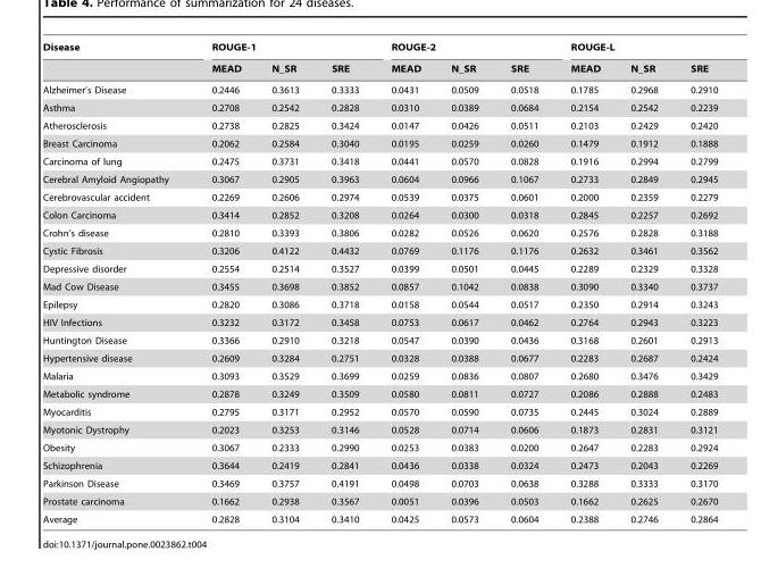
<table><thead><tr><td rowspan="2">Disease</td><td colspan="3">ROUGE-1</td><td colspan="3">ROUGE-2</td><td colspan="3">ROUGE-L</td></tr><tr><td>MEAD</td><td>N_SR</td><td>SRE</td><td>MEAD</td><td>N_SR</td><td>SRE</td><td>MEAD</td><td>N_SR</td><td>SRE</td></tr></thead><tbody><tr><td>Alzheimer’s Disease</td><td>0.2446</td><td>0.3613</td><td>0.3333</td><td>0.0431</td><td>0.0509</td><td>0.0518</td><td>0.1785</td><td>0.2968</td><td>0.2910</td></tr><tr><td>Asthma</td><td>0.2708</td><td>0.2542</td><td>0.2828</td><td>0.0310</td><td>0.0389</td><td>0.0684</td><td>0.2154</td><td>0.2542</td><td>0.2239</td></tr><tr><td>Atherosclerosis</td><td>0.2738</td><td>0.2825</td><td>0.3424</td><td>0.0147</td><td>0.0426</td><td>0.0511</td><td>0.2103</td><td>0.2429</td><td>0.2420</td></tr><tr><td>Breast Carcinoma</td><td>0.2062</td><td>0.2584</td><td>0.3040</td><td>0.0195</td><td>0.0259</td><td>0.0260</td><td>0.1479</td><td>0.1912</td><td>0.1888</td></tr><tr><td>Carcinoma of lung</td><td>0.2475</td><td>0.3731</td><td>0.3418</td><td>0.0441</td><td>0.0570</td><td>0.0828</td><td>0.1916</td><td>0.2994</td><td>0.2799</td></tr><tr><td>Cerebral Amyloid Angiopathy</td><td>0.3067</td><td>0.2905</td><td>0.3963</td><td>0.0604</td><td>0.0966</td><td>0.1067</td><td>0.2733</td><td>0.2849</td><td>0.2945</td></tr><tr><td>Cerebrovascular accident</td><td>0.2269</td><td>0.2606</td><td>0.2974</td><td>0.0539</td><td>0.0375</td><td>0.0601</td><td>0.2000</td><td>0.2359</td><td>0.2279</td></tr><tr><td>Colon Carcinoma</td><td>0.3414</td><td>0.2852</td><td>0.3208</td><td>0.0264</td><td>0.0300</td><td>0.0318</td><td>0.2845</td><td>0.2257</td><td>0.2692</td></tr><tr><td>Crohn’s disease</td><td>0.2810</td><td>0.3393</td><td>0.3806</td><td>0.0282</td><td>0.0526</td><td>0.0620</td><td>0.2576</td><td>0.2828</td><td>0.3188</td></tr><tr><td>Cystic Fibrosis</td><td>0.3206</td><td>0.4122</td><td>0.4432</td><td>0.0769</td><td>0.1176</td><td>0.1176</td><td>0.2632</td><td>0.3461</td><td>0.3562</td></tr><tr><td>Depressive disorder</td><td>0.2554</td><td>0.2514</td><td>0.3527</td><td>0.0399</td><td>0.0501</td><td>0.0445</td><td>0.2289</td><td>0.2329</td><td>0.3328</td></tr><tr><td>Mad Cow Disease</td><td>0.3455</td><td>0.3698</td><td>0.3852</td><td>0.0857</td><td>0.1042</td><td>0.0838</td><td>0.3090</td><td>0.3340</td><td>0.3737</td></tr><tr><td>Epilepsy</td><td>0.2820</td><td>0.3086</td><td>0.3718</td><td>0.0158</td><td>0.0544</td><td>0.0517</td><td>0.2350</td><td>0.2914</td><td>0.3243</td></tr><tr><td>HIV Infections</td><td>0.3232</td><td>0.3172</td><td>0.3458</td><td>0.0753</td><td>0.0617</td><td>0.0462</td><td>0.2764</td><td>0.2943</td><td>0.3223</td></tr><tr><td>Huntington Disease</td><td>0.3366</td><td>0.2910</td><td>0.3218</td><td>0.0547</td><td>0.0390</td><td>0.0436</td><td>0.3168</td><td>0.2601</td><td>0.2913</td></tr><tr><td>Hypertensive disease</td><td>0.2609</td><td>0.3284</td><td>0.2751</td><td>0.0328</td><td>0.0388</td><td>0.0677</td><td>0.2283</td><td>0.2687</td><td>0.2424</td></tr><tr><td>Malaria</td><td>0.3093</td><td>0.3529</td><td>0.3699</td><td>0.0259</td><td>0.0836</td><td>0.0807</td><td>0.2680</td><td>0.3476</td><td>0.3429</td></tr><tr><td>Metabolic syndrome</td><td>0.2878</td><td>0.3249</td><td>0.3509</td><td>0.0580</td><td>0.0811</td><td>0.0727</td><td>0.2086</td><td>0.2888</td><td>0.2483</td></tr><tr><td>Myocarditis</td><td>0.2795</td><td>0.3171</td><td>0.2952</td><td>0.0570</td><td>0.0590</td><td>0.0735</td><td>0.2445</td><td>0.3024</td><td>0.2889</td></tr><tr><td>Myotonic Dystrophy</td><td>0.2023</td><td>0.3253</td><td>0.3146</td><td>0.0528</td><td>0.0714</td><td>0.0606</td><td>0.1873</td><td>0.2831</td><td>0.3121</td></tr><tr><td>Obesity</td><td>0.3067</td><td>0.2333</td><td>0.2990</td><td>0.0253</td><td>0.0383</td><td>0.0200</td><td>0.2647</td><td>0.2283</td><td>0.2924</td></tr><tr><td>Schizophrenia</td><td>0.3644</td><td>0.2419</td><td>0.2841</td><td>0.0436</td><td>0.0338</td><td>0.0324</td><td>0.2473</td><td>0.2043</td><td>0.2269</td></tr><tr><td>Parkinson Disease</td><td>0.3469</td><td>0.3757</td><td>0.4191</td><td>0.0498</td><td>0.0703</td><td>0.0638</td><td>0.3288</td><td>0.3333</td><td>0.3170</td></tr><tr><td>Prostate carcinoma</td><td>0.1662</td><td>0.2938</td><td>0.3567</td><td>0.0051</td><td>0.0396</td><td>0.0503</td><td>0.1662</td><td>0.2625</td><td>0.2670</td></tr><tr><td>Average</td><td>0.2828</td><td>0.3104</td><td>0.3410</td><td>0.0425</td><td>0.0573</td><td>0.0604</td><td>0.2388</td><td>0.2746</td><td>0.2864</td></tr></tbody></table>